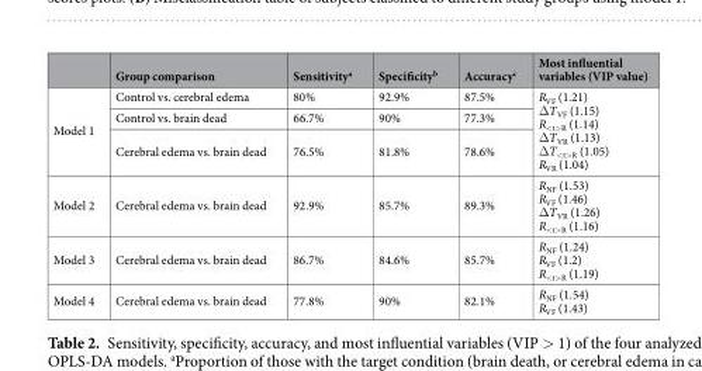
<table><thead><tr><td></td><td>Group comparison</td><td>Sensitivity<sup>a</sup></td><td>Specificity<sup>b</sup></td><td>Accuracy<sup>c</sup></td><td>Most influential variables (VIP value)</td></tr></thead><tbody><tr><td rowspan="3">Model 1</td><td>Control vs. cerebral edema</td><td>80%</td><td>92.9%</td><td>87.5%</td><td rowspan="3">R<sub>VF</sub> (1.21) ΔT<sub>VF</sub> (1.15) R<sub>&lt;t&gt;R</sub> (1.14) ΔT<sub>VR</sub> (1.13) ΔT<sub>&lt;t&gt;R</sub> (1.05) R<sub>VR</sub> (1.04)</td></tr><tr><td>Control vs. brain dead</td><td>66.7%</td><td>90%</td><td>77.3%</td></tr><tr><td>Cerebral edema vs. brain dead</td><td>76.5%</td><td>81.8%</td><td>78.6%</td></tr><tr><td>Model 2</td><td>Cerebral edema vs. brain dead</td><td>92.9%</td><td>85.7%</td><td>89.3%</td><td>R<sub>NF</sub> (1.53) R<sub>VF</sub> (1.46) ΔT<sub>VR</sub> (1.26) R<sub>&lt;t&gt;R</sub> (1.16)</td></tr><tr><td>Model 3</td><td>Cerebral edema vs. brain dead</td><td>86.7%</td><td>84.6%</td><td>85.7%</td><td>R<sub>NF</sub> (1.24) R<sub>VF</sub> (1.2) R<sub>&lt;t&gt;R</sub> (1.19)</td></tr><tr><td>Model 4</td><td>Cerebral edema vs. brain dead</td><td>77.8%</td><td>90%</td><td>82.1%</td><td>R<sub>NF</sub> (1.54) R<sub>VF</sub> (1.43)</td></tr></tbody></table>